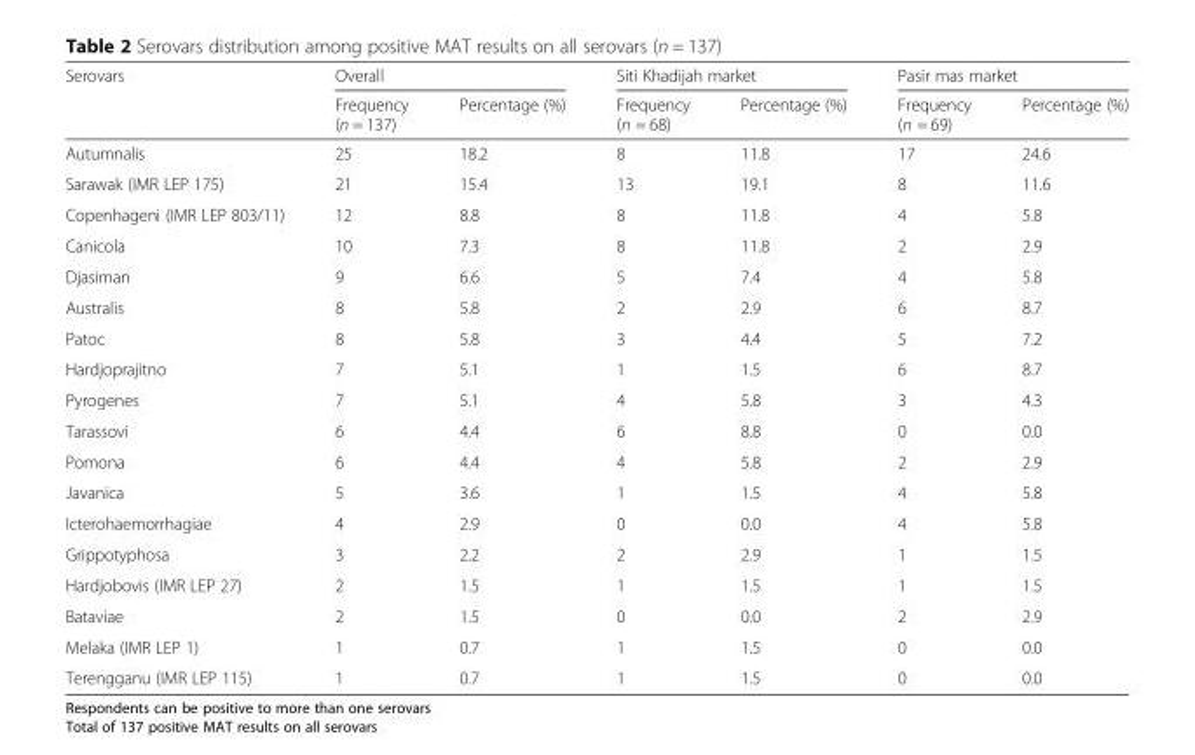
<table><thead><tr><td rowspan="2">Serovars</td><td colspan="2">Overall</td><td colspan="2">Siti Khadijah market</td><td colspan="2">Pasir mas market</td></tr><tr><td>Frequency (n = 137)</td><td>Percentage (%)</td><td>Frequency (n = 68)</td><td>Percentage (%)</td><td>Frequency (n = 69)</td><td>Percentage (%)</td></tr></thead><tbody><tr><td>Autumnalis</td><td>25</td><td>18.2</td><td>8</td><td>11.8</td><td>17</td><td>24.6</td></tr><tr><td>Sarawak (IMR LEP 175)</td><td>21</td><td>15.4</td><td>13</td><td>19.1</td><td>8</td><td>11.6</td></tr><tr><td>Copenhageni (IMR LEP 803/11)</td><td>12</td><td>8.8</td><td>8</td><td>11.8</td><td>4</td><td>5.8</td></tr><tr><td>Canicola</td><td>10</td><td>7.3</td><td>8</td><td>11.8</td><td>2</td><td>2.9</td></tr><tr><td>Djasiman</td><td>9</td><td>6.6</td><td>5</td><td>7.4</td><td>4</td><td>5.8</td></tr><tr><td>Australis</td><td>8</td><td>5.8</td><td>2</td><td>2.9</td><td>6</td><td>8.7</td></tr><tr><td>Patoc</td><td>8</td><td>5.8</td><td>3</td><td>4.4</td><td>5</td><td>7.2</td></tr><tr><td>Hardjoprajitno</td><td>7</td><td>5.1</td><td>1</td><td>1.5</td><td>6</td><td>8.7</td></tr><tr><td>Pyrogenes</td><td>7</td><td>5.1</td><td>4</td><td>5.8</td><td>3</td><td>4.3</td></tr><tr><td>Tarassovi</td><td>6</td><td>4.4</td><td>6</td><td>8.8</td><td>0</td><td>0.0</td></tr><tr><td>Pomona</td><td>6</td><td>4.4</td><td>4</td><td>5.8</td><td>2</td><td>2.9</td></tr><tr><td>Javanica</td><td>5</td><td>3.6</td><td>1</td><td>1.5</td><td>4</td><td>5.8</td></tr><tr><td>Icterohaemorrhagiae</td><td>4</td><td>2.9</td><td>0</td><td>0.0</td><td>4</td><td>5.8</td></tr><tr><td>Grippotyphosa</td><td>3</td><td>2.2</td><td>2</td><td>2.9</td><td>1</td><td>1.5</td></tr><tr><td>Hardjobovis (IMR LEP 27)</td><td>2</td><td>1.5</td><td>1</td><td>1.5</td><td>1</td><td>1.5</td></tr><tr><td>Bataviae</td><td>2</td><td>1.5</td><td>0</td><td>0.0</td><td>2</td><td>2.9</td></tr><tr><td>Melaka (IMR LEP 1)</td><td>1</td><td>0.7</td><td>1</td><td>1.5</td><td>0</td><td>0.0</td></tr><tr><td>Terengganu (IMR LEP 115)</td><td>1</td><td>0.7</td><td>1</td><td>1.5</td><td>0</td><td>0.0</td></tr></tbody></table>